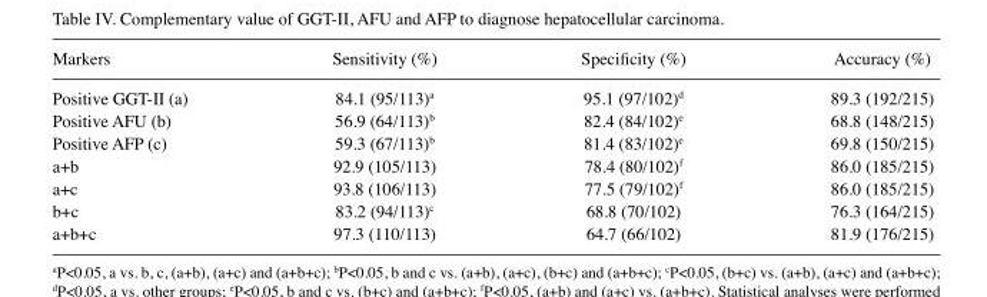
<table><thead><tr><td>Markers</td><td>Sensitivity (%)</td><td>Specificity (%)</td><td>Accuracy (%)</td></tr></thead><tbody><tr><td>Positive GGT-II (a)</td><td>84.1 (95/113)<sup>a</sup></td><td>95.1 (97/102)<sup>d</sup></td><td>89.3 (192/215)</td></tr><tr><td>Positive AFU (b)</td><td>56.9 (64/113)<sup>b</sup></td><td>82.4 (84/102)<sup>e</sup></td><td>68.8 (148/215)</td></tr><tr><td>Positive AFP (c)</td><td>59.3 (67/113)<sup>b</sup></td><td>81.4 (83/102)<sup>e</sup></td><td>69.8 (150/215)</td></tr><tr><td>a+b</td><td>92.9 (105/113)</td><td>78.4 (80/102)<sup>f</sup></td><td>86.0 (185/215)</td></tr><tr><td>a+c</td><td>93.8 (106/113)</td><td>77.5 (79/102)<sup>f</sup></td><td>86.0 (185/215)</td></tr><tr><td>b+c</td><td>83.2 (94/113)<sup>c</sup></td><td>68.8 (70/102)</td><td>76.3 (164/215)</td></tr><tr><td>a+b+c</td><td>97.3 (110/113)</td><td>64.7 (66/102)</td><td>81.9 (176/215)</td></tr></tbody></table>